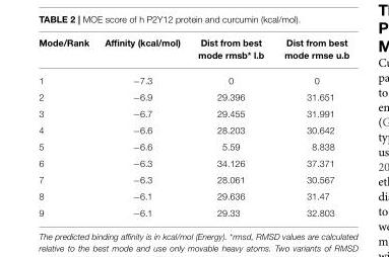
<table><thead><tr><td>Mode/Rank</td><td>Affinity (kcal/mol)</td><td>Dist from best mode rmsb* l.b</td><td>Dist from best mode rmse u.b</td></tr></thead><tbody><tr><td>1</td><td>−7.3</td><td>0</td><td>0</td></tr><tr><td>2</td><td>−6.9</td><td>29.396</td><td>31.651</td></tr><tr><td>3</td><td>−6.7</td><td>29.455</td><td>31.991</td></tr><tr><td>4</td><td>−6.6</td><td>28.203</td><td>30.642</td></tr><tr><td>5</td><td>−6.6</td><td>5.59</td><td>8.838</td></tr><tr><td>6</td><td>−6.3</td><td>34.126</td><td>37.371</td></tr><tr><td>7</td><td>−6.3</td><td>28.061</td><td>30.567</td></tr><tr><td>8</td><td>−6.1</td><td>29.636</td><td>31.47</td></tr><tr><td>9</td><td>−6.1</td><td>29.33</td><td>32.803</td></tr></tbody></table>